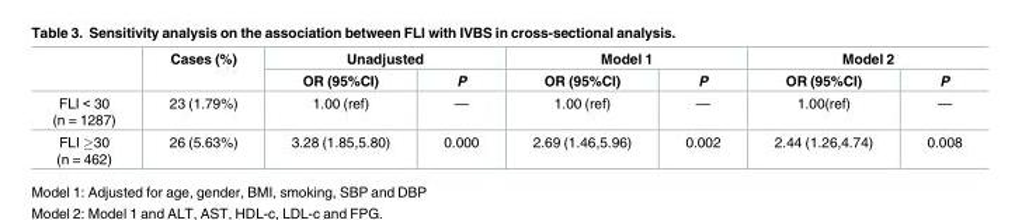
<table><thead><tr><td rowspan="2"></td><td rowspan="2">Cases (%)</td><td colspan="2">Unadjusted</td><td colspan="2">Model 1</td><td colspan="2">Model 2</td></tr><tr><td>OR (95%CI)</td><td>P</td><td>OR (95%CI)</td><td>P</td><td>OR (95%CI)</td><td>P</td></tr></thead><tbody><tr><td>FLI &lt; 30 (n = 1287)</td><td>23 (1.79%)</td><td>1.00 (ref)</td><td>—</td><td>1.00 (ref)</td><td>—</td><td>1.00(ref)</td><td>—</td></tr><tr><td>FLI ≥30 (n = 462)</td><td>26 (5.63%)</td><td>3.28 (1.85,5.80)</td><td>0.000</td><td>2.69 (1.46,5.96)</td><td>0.002</td><td>2.44 (1.26,4.74)</td><td>0.008</td></tr></tbody></table>